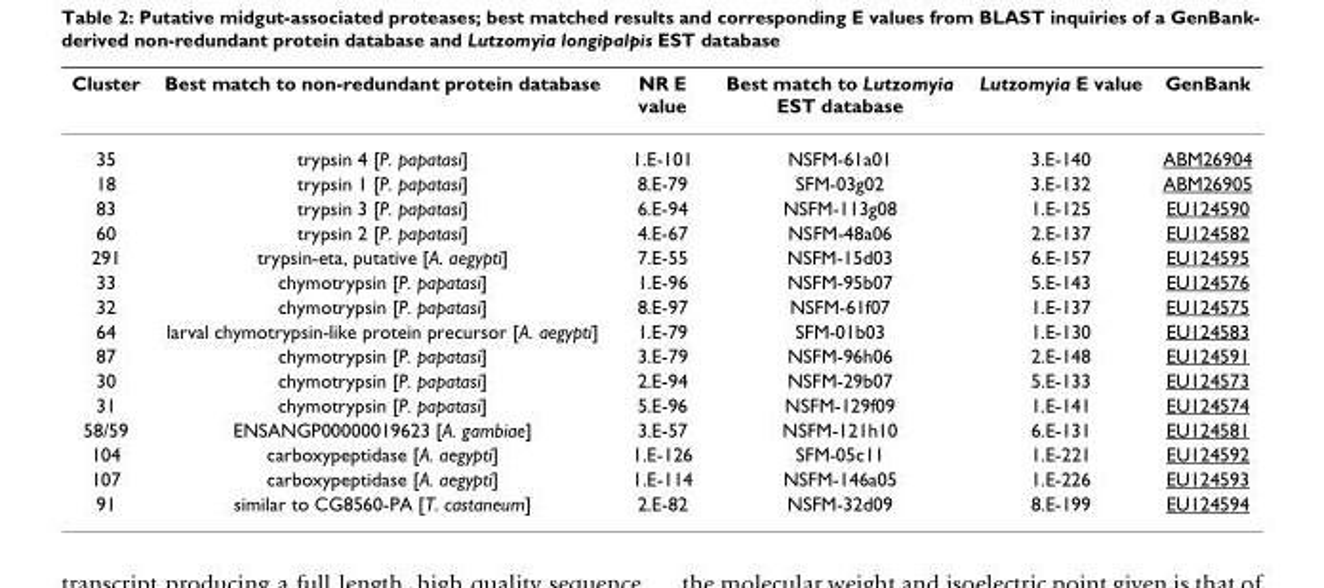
<table><thead><tr><td>Cluster</td><td>Best match to non-redundant protein database</td><td>NR E value</td><td>Best match to Lutzomyia EST database</td><td>Lutzomyia E value</td><td>GenBank</td></tr></thead><tbody><tr><td>35</td><td>trypsin 4 [P. papatasi]</td><td>1.E-101</td><td>NSFM-61a01</td><td>3.E-140</td><td>ABM26904</td></tr><tr><td>18</td><td>trypsin 1 [P. papatasi]</td><td>8.E-79</td><td>SFM-03g02</td><td>3.E-132</td><td>ABM26905</td></tr><tr><td>83</td><td>trypsin 3 [P. papatasi]</td><td>6.E-94</td><td>NSFM-113g08</td><td>1.E-125</td><td>EU124590</td></tr><tr><td>60</td><td>trypsin 2 [P. papatasi]</td><td>4.E-67</td><td>NSFM-48a06</td><td>2.E-137</td><td>EU124582</td></tr><tr><td>291</td><td>trypsin-eta, putative [A. aegypti]</td><td>7.E-55</td><td>NSFM-15d03</td><td>6.E-157</td><td>EU124595</td></tr><tr><td>33</td><td>chymotrypsin [P. papatasi]</td><td>1.E-96</td><td>NSFM-95b07</td><td>5.E-143</td><td>EU124576</td></tr><tr><td>32</td><td>chymotrypsin [P. papatasi]</td><td>8.E-97</td><td>NSFM-61f07</td><td>1.E-137</td><td>EU124575</td></tr><tr><td>64</td><td>larval chymotrypsin-like protein precursor [A. aegypti]</td><td>1.E-79</td><td>SFM-01b03</td><td>1.E-130</td><td>EU124583</td></tr><tr><td>87</td><td>chymotrypsin [P. papatasi]</td><td>3.E-79</td><td>NSFM-96h06</td><td>2.E-148</td><td>EU124591</td></tr><tr><td>30</td><td>chymotrypsin [P. papatasi]</td><td>2.E-94</td><td>NSFM-29b07</td><td>5.E-133</td><td>EU124573</td></tr><tr><td>31</td><td>chymotrypsin [P. papatasi]</td><td>5.E-96</td><td>NSFM-129f09</td><td>1.E-141</td><td>EU124574</td></tr><tr><td>58/59</td><td>ENSANGP00000019623 [A. gambiae]</td><td>3.E-57</td><td>NSFM-121h10</td><td>6.E-131</td><td>EU124581</td></tr><tr><td>104</td><td>carboxypeptidase [A. aegypti]</td><td>1.E-126</td><td>SFM-05c11</td><td>1.E-221</td><td>EU124592</td></tr><tr><td>107</td><td>carboxypeptidase [A. aegypti]</td><td>1.E-114</td><td>NSFM-146a05</td><td>1.E-226</td><td>EU124593</td></tr><tr><td>91</td><td>similar to CG8560-PA [T. castaneum]</td><td>2.E-82</td><td>NSFM-32d09</td><td>8.E-199</td><td>EU124594</td></tr></tbody></table>